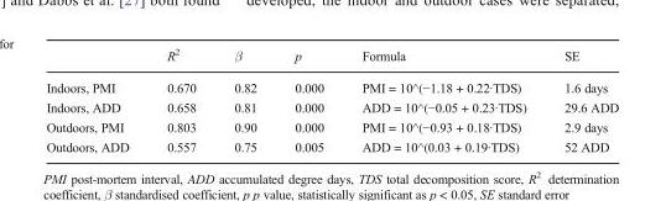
<table><thead><tr><td></td><td>R2</td><td>β</td><td>p</td><td>Formula</td><td>SE</td></tr></thead><tbody><tr><td>Indoors, PMI</td><td>0.670</td><td>0.82</td><td>0.000</td><td>PMI = 10^(−1.18 + 0.22·TDS)</td><td>1.6 days</td></tr><tr><td>Indoors, ADD</td><td>0.658</td><td>0.81</td><td>0.000</td><td>ADD = 10^(−0.05 + 0.23·TDS)</td><td>29.6 ADD</td></tr><tr><td>Outdoors, PMI</td><td>0.803</td><td>0.90</td><td>0.000</td><td>PMI = 10^(−0.93 + 0.18·TDS)</td><td>2.9 days</td></tr><tr><td>Outdoors, ADD</td><td>0.557</td><td>0.75</td><td>0.005</td><td>ADD = 10^(0.03 + 0.19·TDS)</td><td>52 ADD</td></tr></tbody></table>